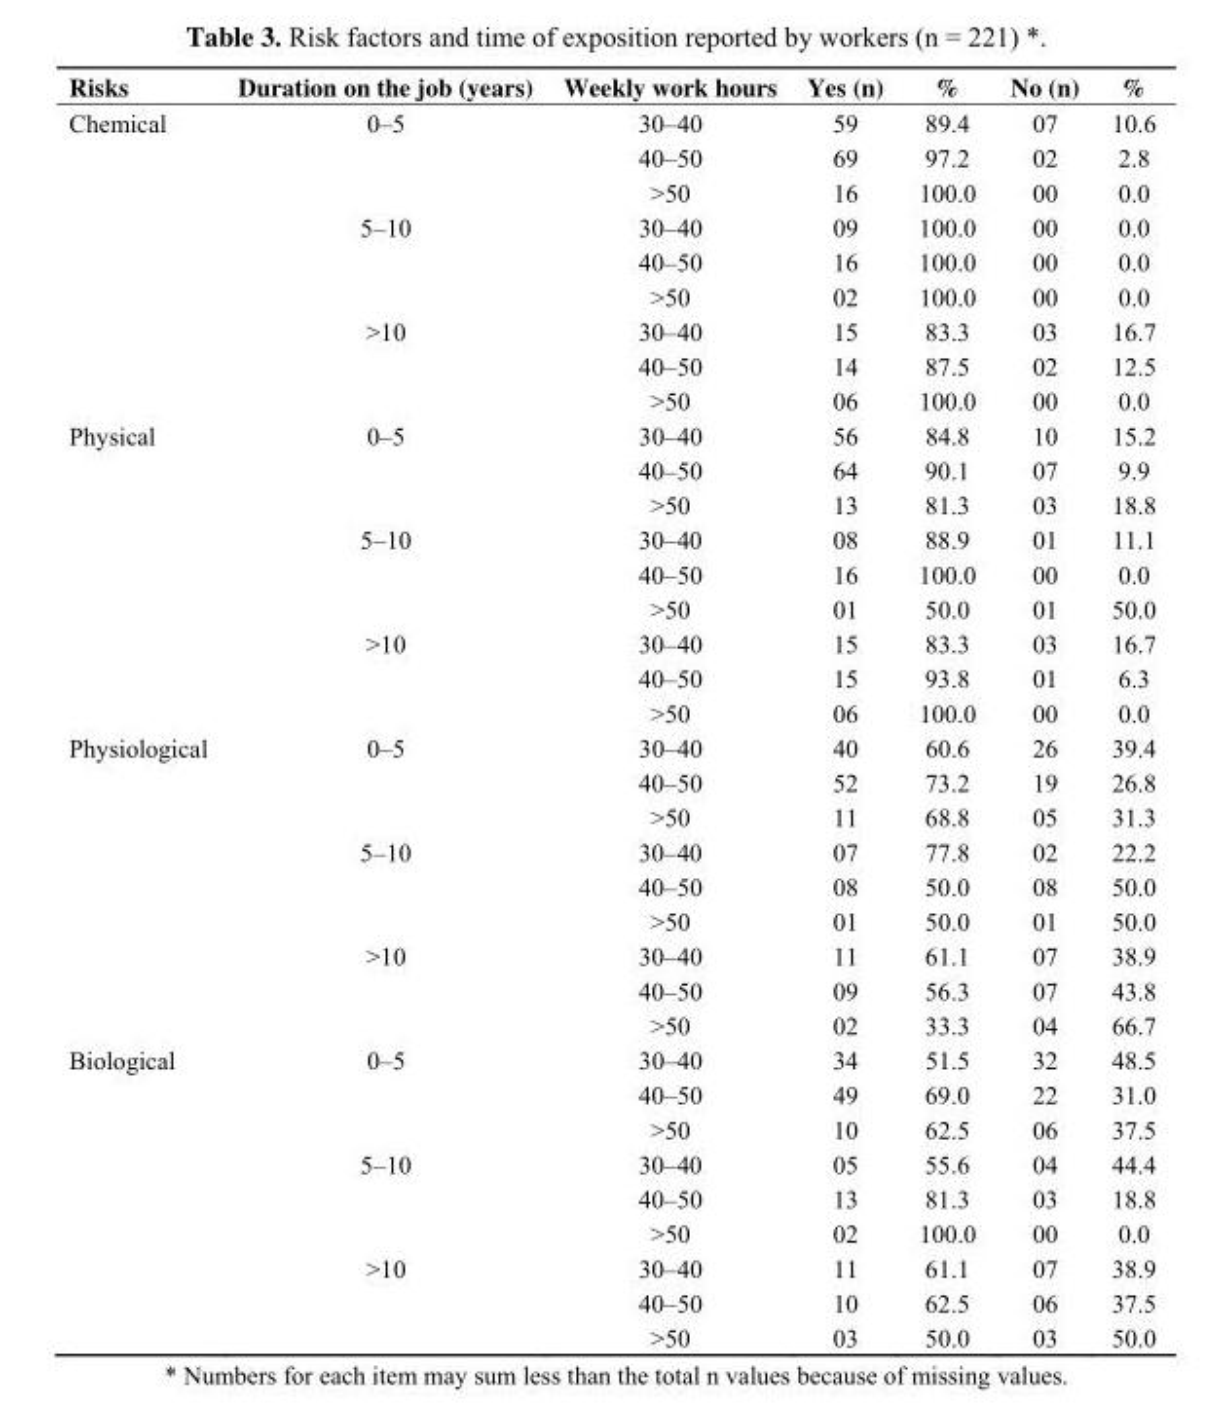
<table><thead><tr><td>Risks</td><td>Duration on the job (years)</td><td>Weekly work hours</td><td>Yes (n)</td><td>%</td><td>No (n)</td><td>%</td></tr></thead><tbody><tr><td rowspan="9">Chemical</td><td>0–5</td><td>30–40</td><td>59</td><td>89.4</td><td>07</td><td>10.6</td></tr><tr><td></td><td>40–50</td><td>69</td><td>97.2</td><td>02</td><td>2.8</td></tr><tr><td></td><td>&gt;50</td><td>16</td><td>100.0</td><td>00</td><td>0.0</td></tr><tr><td>5–10</td><td>30–40</td><td>09</td><td>100.0</td><td>00</td><td>0.0</td></tr><tr><td></td><td>40–50</td><td>16</td><td>100.0</td><td>00</td><td>0.0</td></tr><tr><td></td><td>&gt;50</td><td>02</td><td>100.0</td><td>00</td><td>0.0</td></tr><tr><td>&gt;10</td><td>30–40</td><td>15</td><td>83.3</td><td>03</td><td>16.7</td></tr><tr><td></td><td>40–50</td><td>14</td><td>87.5</td><td>02</td><td>12.5</td></tr><tr><td></td><td>&gt;50</td><td>06</td><td>100.0</td><td>00</td><td>0.0</td></tr><tr><td rowspan="9">Physical</td><td>0–5</td><td>30–40</td><td>56</td><td>84.8</td><td>10</td><td>15.2</td></tr><tr><td></td><td>40–50</td><td>64</td><td>90.1</td><td>07</td><td>9.9</td></tr><tr><td></td><td>&gt;50</td><td>13</td><td>81.3</td><td>03</td><td>18.8</td></tr><tr><td>5–10</td><td>30–40</td><td>08</td><td>88.9</td><td>01</td><td>11.1</td></tr><tr><td></td><td>40–50</td><td>16</td><td>100.0</td><td>00</td><td>0.0</td></tr><tr><td></td><td>&gt;50</td><td>01</td><td>50.0</td><td>01</td><td>50.0</td></tr><tr><td>&gt;10</td><td>30–40</td><td>15</td><td>83.3</td><td>03</td><td>16.7</td></tr><tr><td></td><td>40–50</td><td>15</td><td>93.8</td><td>01</td><td>6.3</td></tr><tr><td></td><td>&gt;50</td><td>06</td><td>100.0</td><td>00</td><td>0.0</td></tr><tr><td rowspan="9">Physiological</td><td>0–5</td><td>30–40</td><td>40</td><td>60.6</td><td>26</td><td>39.4</td></tr><tr><td></td><td>40–50</td><td>52</td><td>73.2</td><td>19</td><td>26.8</td></tr><tr><td></td><td>&gt;50</td><td>11</td><td>68.8</td><td>05</td><td>31.3</td></tr><tr><td>5–10</td><td>30–40</td><td>07</td><td>77.8</td><td>02</td><td>22.2</td></tr><tr><td></td><td>40–50</td><td>08</td><td>50.0</td><td>08</td><td>50.0</td></tr><tr><td></td><td>&gt;50</td><td>01</td><td>50.0</td><td>01</td><td>50.0</td></tr><tr><td>&gt;10</td><td>30–40</td><td>11</td><td>61.1</td><td>07</td><td>38.9</td></tr><tr><td></td><td>40–50</td><td>09</td><td>56.3</td><td>07</td><td>43.8</td></tr><tr><td></td><td>&gt;50</td><td>02</td><td>33.3</td><td>04</td><td>66.7</td></tr><tr><td rowspan="9">Biological</td><td>0–5</td><td>30–40</td><td>34</td><td>51.5</td><td>32</td><td>48.5</td></tr><tr><td></td><td>40–50</td><td>49</td><td>69.0</td><td>22</td><td>31.0</td></tr><tr><td></td><td>&gt;50</td><td>10</td><td>62.5</td><td>06</td><td>37.5</td></tr><tr><td>5–10</td><td>30–40</td><td>05</td><td>55.6</td><td>04</td><td>44.4</td></tr><tr><td></td><td>40–50</td><td>13</td><td>81.3</td><td>03</td><td>18.8</td></tr><tr><td></td><td>&gt;50</td><td>02</td><td>100.0</td><td>00</td><td>0.0</td></tr><tr><td>&gt;10</td><td>30–40</td><td>11</td><td>61.1</td><td>07</td><td>38.9</td></tr><tr><td></td><td>40–50</td><td>10</td><td>62.5</td><td>06</td><td>37.5</td></tr><tr><td></td><td>&gt;50</td><td>03</td><td>50.0</td><td>03</td><td>50.0</td></tr></tbody></table>